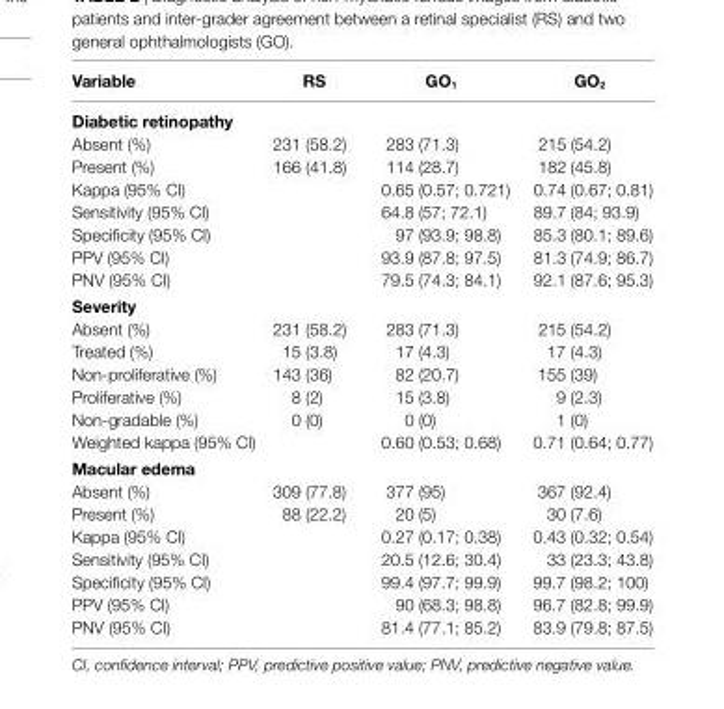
<table><thead><tr><td>Variable</td><td>rs</td><td>gO<sub>1</sub></td><td>gO<sub>2</sub></td></tr></thead><tbody><tr><td colspan="4">Diabetic retinopathy</td></tr><tr><td>Absent (%)</td><td>231 (58.2)</td><td>283 (71.3)</td><td>215 (54.2)</td></tr><tr><td>Present (%)</td><td>166 (41.8)</td><td>114 (28.7)</td><td>182 (45.8)</td></tr><tr><td>Kappa (95% CI)</td><td></td><td>0.65 (0.57; 0.721)</td><td>0.74 (0.67; 0.81)</td></tr><tr><td>Sensitivity (95% CI)</td><td></td><td>64.8 (57; 72.1)</td><td>89.7 (84; 93.9)</td></tr><tr><td>Specificity (95% CI)</td><td></td><td>97 (93.9; 98.8)</td><td>85.3 (80.1; 89.6)</td></tr><tr><td>PPV (95% CI)</td><td></td><td>93.9 (87.8; 97.5)</td><td>81.3 (74.9; 86.7)</td></tr><tr><td>PNV (95% CI)</td><td></td><td>79.5 (74.3; 84.1)</td><td>92.1 (87.6; 95.3)</td></tr><tr><td colspan="4">severity</td></tr><tr><td>Absent (%)</td><td>231 (58.2)</td><td>283 (71.3)</td><td>215 (54.2)</td></tr><tr><td>Treated (%)</td><td>15 (3.8)</td><td>17 (4.3)</td><td>17 (4.3)</td></tr><tr><td>Non-proliferative (%)</td><td>143 (36)</td><td>82 (20.7)</td><td>155 (39)</td></tr><tr><td>Proliferative (%)</td><td>8 (2)</td><td>15 (3.8)</td><td>9 (2.3)</td></tr><tr><td>Non-gradable (%)</td><td>0 (0)</td><td>0 (0)</td><td>1 (0)</td></tr><tr><td>Weighted kappa (95% CI)</td><td></td><td>0.60 (0.53; 0.68)</td><td>0.71 (0.64; 0.77)</td></tr><tr><td colspan="4">Macular edema</td></tr><tr><td>Absent (%)</td><td>309 (77.8)</td><td>377 (95)</td><td>367 (92.4)</td></tr><tr><td>Present (%)</td><td>88 (22.2)</td><td>20 (5)</td><td>30 (7.6)</td></tr><tr><td>Kappa (95% CI)</td><td></td><td>0.27 (0.17; 0.38)</td><td>0.43 (0.32; 0.54)</td></tr><tr><td>Sensitivity (95% CI)</td><td></td><td>20.5 (12.6; 30.4)</td><td>33 (23.3; 43.8)</td></tr><tr><td>Specificity (95% CI)</td><td></td><td>99.4 (97.7; 99.9)</td><td>99.7 (98.2; 100)</td></tr><tr><td>PPV (95% CI)</td><td></td><td>90 (68.3; 98.8)</td><td>96.7 (82.8; 99.9)</td></tr><tr><td>PNV (95% CI)</td><td></td><td>81.4 (77.1; 85.2)</td><td>83.9 (79.8; 87.5)</td></tr></tbody></table>